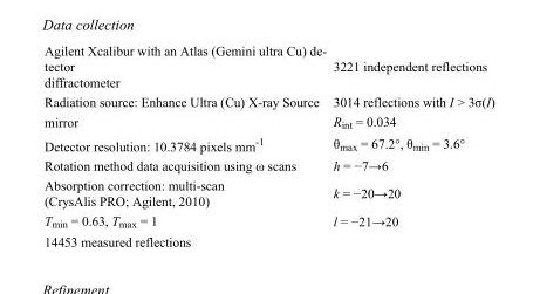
<table><tbody><tr><td>Agilent Xcalibur with an Atlas (Gemini ultra Cu) de- tector diffractometer</td><td>3221 independent reflections</td></tr><tr><td>Radiation source: Enhance Ultra (Cu) X-ray Source</td><td>3014 reflections with I &gt; 3σ(I)</td></tr><tr><td>mirror</td><td>R<sub>int</sub> = 0.034</td></tr><tr><td>Detector resolution: 10.3784 pixels mm<sup>-1</sup></td><td>θ<sub>max</sub> = 67.2°, θ<sub>min</sub> = 3.6°</td></tr><tr><td>Rotation method data acquisition using ω scans</td><td>h = −7→6</td></tr><tr><td>Absorption correction: multi-scan (CrysAlis PRO; Agilent, 2010)</td><td>k = −20→20</td></tr><tr><td>T<sub>min</sub> = 0.63, T<sub>max</sub> = 1</td><td>l = −21→20</td></tr><tr><td>14453 measured reflections</td><td></td></tr></tbody></table>